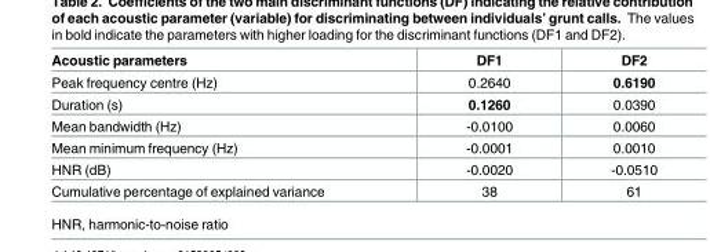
<table><thead><tr><td>Acoustic parameters</td><td>DF1</td><td>DF2</td></tr></thead><tbody><tr><td>Peak frequency centre (Hz)</td><td>0.2640</td><td>0.6190</td></tr><tr><td>Duration (s)</td><td>0.1260</td><td>0.0390</td></tr><tr><td>Mean bandwidth (Hz)</td><td>-0.0100</td><td>0.0060</td></tr><tr><td>Mean minimum frequency (Hz)</td><td>-0.0001</td><td>0.0010</td></tr><tr><td>HNR (dB)</td><td>-0.0020</td><td>-0.0510</td></tr><tr><td>Cumulative percentage of explained variance</td><td>38</td><td>61</td></tr></tbody></table>